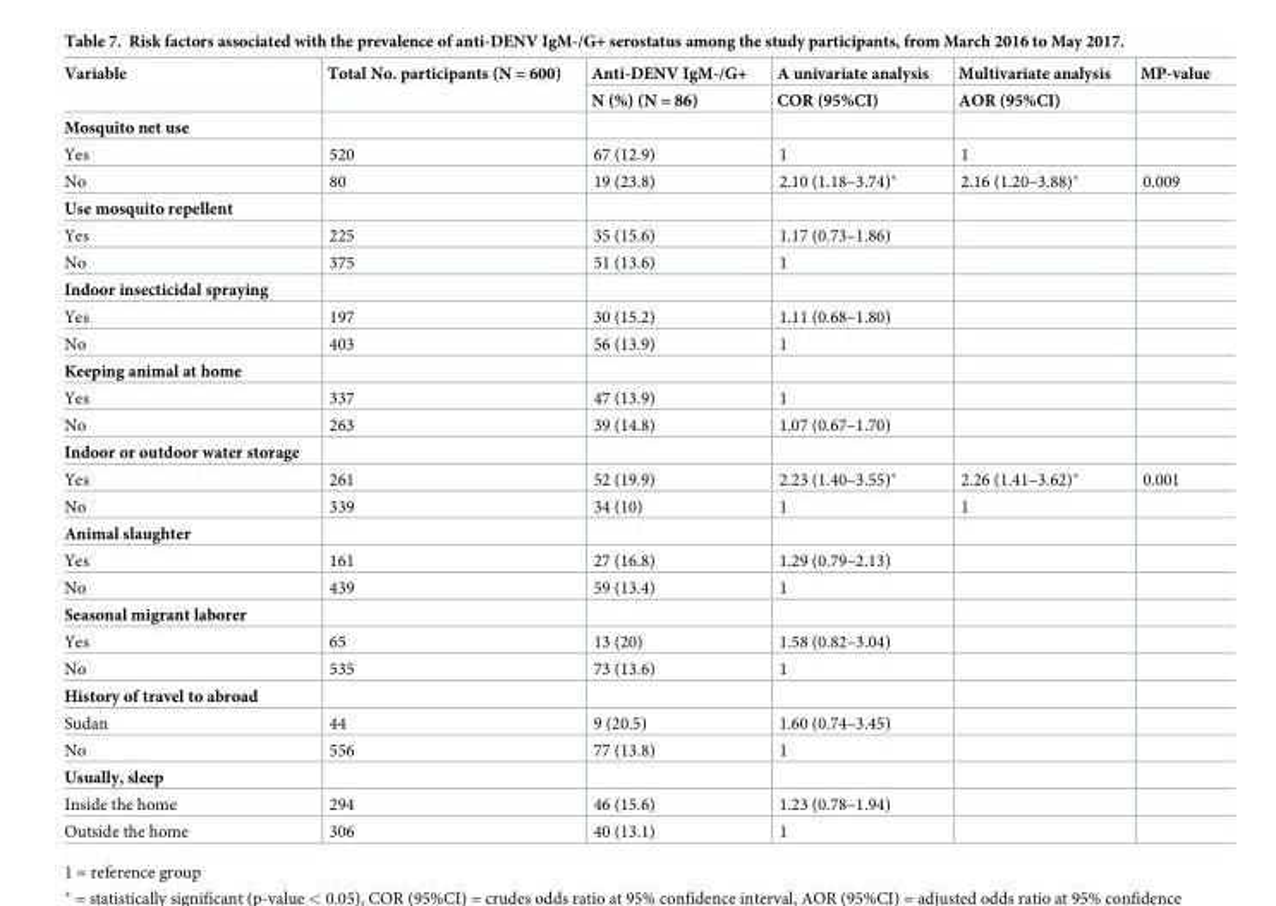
<table><thead><tr><td rowspan="2">Variable</td><td rowspan="2">Total No. participants (N = 600)</td><td rowspan="2">Anti-DENV IgM-/G+ N (%) (N = 86)</td><td rowspan="2">A univariate analysis COR (95%CI)</td><td rowspan="2">Multivariate analysis AOR (95%CI)</td><td rowspan="2">MP-value</td></tr><tr></tr></thead><tbody><tr><td colspan="6">Mosquito net use</td></tr><tr><td>Yes</td><td>520</td><td>67 (12.9)</td><td>1</td><td>1</td><td></td></tr><tr><td>No</td><td>80</td><td>19 (23.8)</td><td>2.10 (1.18–3.74)*</td><td>2.16 (1.20–3.88)*</td><td>0.009</td></tr><tr><td colspan="6">Use mosquito repellent</td></tr><tr><td>Yes</td><td>225</td><td>35 (15.6)</td><td>1.17 (0.73–1.86)</td><td></td><td></td></tr><tr><td>No</td><td>375</td><td>51 (13.6)</td><td>1</td><td></td><td></td></tr><tr><td colspan="6">Indoor insecticidal spraying</td></tr><tr><td>Yes</td><td>197</td><td>30 (15.2)</td><td>1.11 (0.68–1.80)</td><td></td><td></td></tr><tr><td>No</td><td>403</td><td>56 (13.9)</td><td>1</td><td></td><td></td></tr><tr><td colspan="6">Keeping animal at home</td></tr><tr><td>Yes</td><td>337</td><td>47 (13.9)</td><td>1</td><td></td><td></td></tr><tr><td>No</td><td>263</td><td>39 (14.8)</td><td>1.07 (0.67–1.70)</td><td></td><td></td></tr><tr><td colspan="6">Indoor or outdoor water storage</td></tr><tr><td>Yes</td><td>261</td><td>52 (19.9)</td><td>2.23 (1.40–3.55)*</td><td>2.26 (1.41–3.62)*</td><td>0.001</td></tr><tr><td>No</td><td>339</td><td>34 (10)</td><td>1</td><td>1</td><td></td></tr><tr><td colspan="6">Animal slaughter</td></tr><tr><td>Yes</td><td>161</td><td>27 (16.8)</td><td>1.29 (0.79–2.13)</td><td></td><td></td></tr><tr><td>No</td><td>439</td><td>59 (13.4)</td><td>1</td><td></td><td></td></tr><tr><td colspan="6">Seasonal migrant laborer</td></tr><tr><td>Yes</td><td>65</td><td>13 (20)</td><td>1.58 (0.82–3.04)</td><td></td><td></td></tr><tr><td>No</td><td>535</td><td>73 (13.6)</td><td>1</td><td></td><td></td></tr><tr><td colspan="6">History of travel to abroad</td></tr><tr><td>Sudan</td><td>44</td><td>9 (20.5)</td><td>1.60 (0.74–3.45)</td><td></td><td></td></tr><tr><td>No</td><td>556</td><td>77 (13.8)</td><td>1</td><td></td><td></td></tr><tr><td colspan="6">Usually, sleep</td></tr><tr><td>Inside the home</td><td>294</td><td>46 (15.6)</td><td>1.23 (0.78–1.94)</td><td></td><td></td></tr><tr><td>Outside the home</td><td>306</td><td>40 (13.1)</td><td>1</td><td></td><td></td></tr></tbody></table>